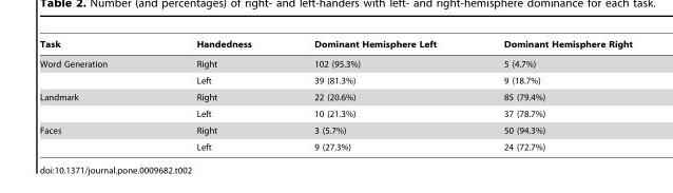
<table><thead><tr><td>Task</td><td>Handedness</td><td>Dominant Hemisphere Left</td><td>Dominant Hemisphere Right</td></tr></thead><tbody><tr><td rowspan="2">Word Generation</td><td>Right</td><td>102 (95.3%)</td><td>5 (4.7%)</td></tr><tr><td>Left</td><td>39 (81.3%)</td><td>9 (18.7%)</td></tr><tr><td rowspan="2">Landmark</td><td>Right</td><td>22 (20.6%)</td><td>85 (79.4%)</td></tr><tr><td>Left</td><td>10 (21.3%)</td><td>37 (78.7%)</td></tr><tr><td rowspan="2">Faces</td><td>Right</td><td>3 (5.7%)</td><td>50 (94.3%)</td></tr><tr><td>Left</td><td>9 (27.3%)</td><td>24 (72.7%)</td></tr></tbody></table>